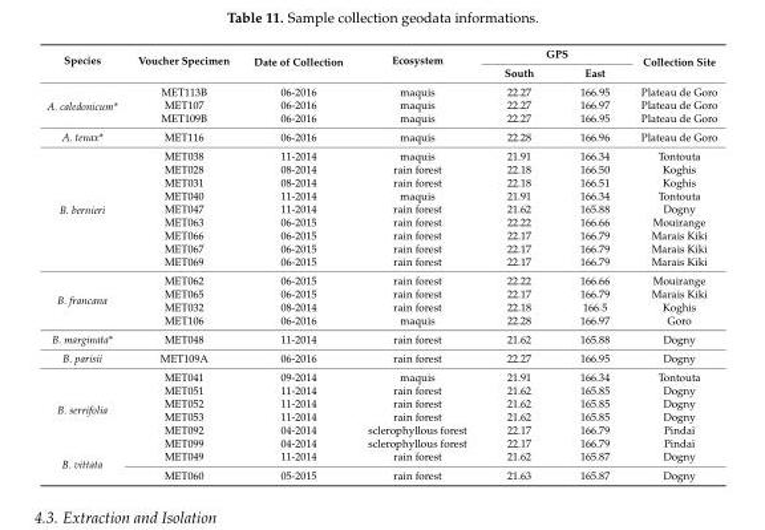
<table><thead><tr><td rowspan="2">Species</td><td rowspan="2">Voucher Specimen</td><td rowspan="2">Date of Collection</td><td rowspan="2">Ecosystem</td><td colspan="2">GPS</td><td rowspan="2">Collection Site</td></tr><tr><td>South</td><td>East</td></tr></thead><tbody><tr><td rowspan="3">A. caledonicum*</td><td>MET113B</td><td>06-2016</td><td>maquis</td><td>22.27</td><td>166.95</td><td>Plateau de Goro</td></tr><tr><td>MET107</td><td>06-2016</td><td>maquis</td><td>22.27</td><td>166.97</td><td>Plateau de Goro</td></tr><tr><td>MET109B</td><td>06-2016</td><td>maquis</td><td>22.27</td><td>166.95</td><td>Plateau de Goro</td></tr><tr><td>A. tenax*</td><td>MET116</td><td>06-2016</td><td>maquis</td><td>22.28</td><td>166.96</td><td>Plateau de Goro</td></tr><tr><td rowspan="9">B. bernieri</td><td>MET038</td><td>11-2014</td><td>maquis</td><td>21.91</td><td>166.34</td><td>Tontouta</td></tr><tr><td>MET028</td><td>08-2014</td><td>rain forest</td><td>22.18</td><td>166.50</td><td>Koghis</td></tr><tr><td>MET031</td><td>08-2014</td><td>rain forest</td><td>22.18</td><td>166.51</td><td>Koghis</td></tr><tr><td>MET040</td><td>11-2014</td><td>maquis</td><td>21.91</td><td>166.34</td><td>Tontouta</td></tr><tr><td>MET047</td><td>11-2014</td><td>rain forest</td><td>21.62</td><td>165.88</td><td>Dogny</td></tr><tr><td>MET063</td><td>06-2015</td><td>rain forest</td><td>22.22</td><td>166.66</td><td>Mouirange</td></tr><tr><td>MET066</td><td>06-2015</td><td>rain forest</td><td>22.17</td><td>166.79</td><td>Marais Kiki</td></tr><tr><td>MET067</td><td>06-2015</td><td>rain forest</td><td>22.17</td><td>166.79</td><td>Marais Kiki</td></tr><tr><td>MET069</td><td>06-2015</td><td>rain forest</td><td>22.17</td><td>166.79</td><td>Marais Kiki</td></tr><tr><td rowspan="4">B. francana</td><td>MET062</td><td>06-2015</td><td>rain forest</td><td>22.22</td><td>166.66</td><td>Mouirange</td></tr><tr><td>MET065</td><td>06-2015</td><td>rain forest</td><td>22.17</td><td>166.79</td><td>Marais Kiki</td></tr><tr><td>MET032</td><td>08-2014</td><td>rain forest</td><td>22.18</td><td>166.5</td><td>Koghis</td></tr><tr><td>MET106</td><td>06-2016</td><td>maquis</td><td>22.28</td><td>166.97</td><td>Goro</td></tr><tr><td>B. marginata*</td><td>MET048</td><td>11-2014</td><td>rain forest</td><td>21.62</td><td>165.88</td><td>Dogny</td></tr><tr><td>B. parisii</td><td>MET109A</td><td>06-2016</td><td>rain forest</td><td>22.27</td><td>166.95</td><td>Dogny</td></tr><tr><td rowspan="6">B. serrifolia</td><td>MET041</td><td>09-2014</td><td>maquis</td><td>21.91</td><td>166.34</td><td>Tontouta</td></tr><tr><td>MET051</td><td>11-2014</td><td>rain forest</td><td>21.62</td><td>165.85</td><td>Dogny</td></tr><tr><td>MET052</td><td>11-2014</td><td>rain forest</td><td>21.62</td><td>165.85</td><td>Dogny</td></tr><tr><td>MET053</td><td>11-2014</td><td>rain forest</td><td>21.62</td><td>165.85</td><td>Dogny</td></tr><tr><td>MET092</td><td>04-2014</td><td>sclerophyllous forest</td><td>22.17</td><td>166.79</td><td>Pindaï</td></tr><tr><td>MET099</td><td>04-2014</td><td>sclerophyllous forest</td><td>22.17</td><td>166.79</td><td>Pindaï</td></tr><tr><td rowspan="2">B. vittata</td><td>MET049</td><td>11-2014</td><td>rain forest</td><td>21.62</td><td>165.87</td><td>Dogny</td></tr><tr><td>MET060</td><td>05-2015</td><td>rain forest</td><td>21.63</td><td>165.87</td><td>Dogny</td></tr></tbody></table>